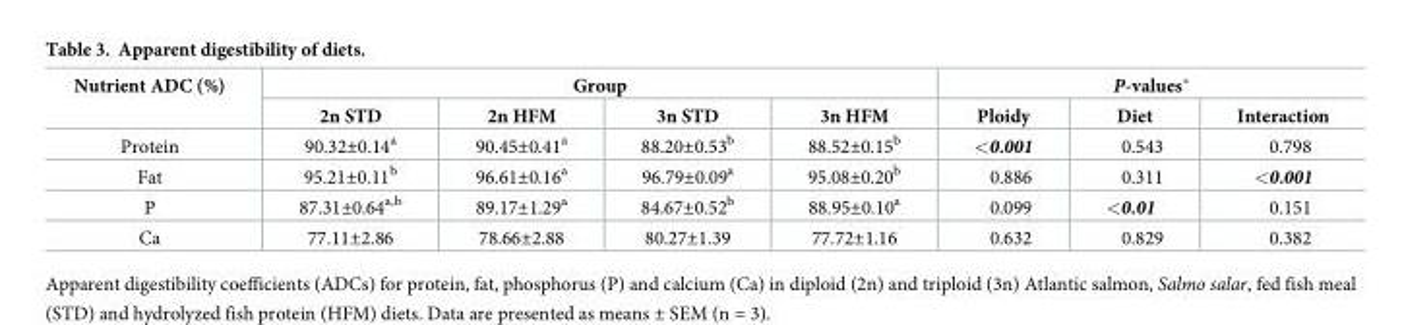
<table><thead><tr><td rowspan="2">Nutrient ADC (%)</td><td colspan="4">Group</td><td colspan="3">P-values*</td></tr><tr><td>2n STD</td><td>2n HFM</td><td>3n STD</td><td>3n HFM</td><td>Ploidy</td><td>Diet</td><td>Interaction</td></tr></thead><tbody><tr><td>Protein</td><td>90.32±0.14<sup>a</sup></td><td>90.45±0.41<sup>a</sup></td><td>88.20±0.53<sup>b</sup></td><td>88.52±0.15<sup>b</sup></td><td>&lt;0.001</td><td>0.543</td><td>0.798</td></tr><tr><td>Fat</td><td>95.21±0.11<sup>b</sup></td><td>96.61±0.16<sup>a</sup></td><td>96.79±0.09<sup>a</sup></td><td>95.08±0.20<sup>b</sup></td><td>0.886</td><td>0.311</td><td>&lt;0.001</td></tr><tr><td>P</td><td>87.31±0.64<sup>a,b</sup></td><td>89.17±1.29<sup>a</sup></td><td>84.67±0.52<sup>b</sup></td><td>88.95±0.10<sup>a</sup></td><td>0.099</td><td>&lt;0.01</td><td>0.151</td></tr><tr><td>Ca</td><td>77.11±2.86</td><td>78.66±2.88</td><td>80.27±1.39</td><td>77.72±1.16</td><td>0.632</td><td>0.829</td><td>0.382</td></tr></tbody></table>